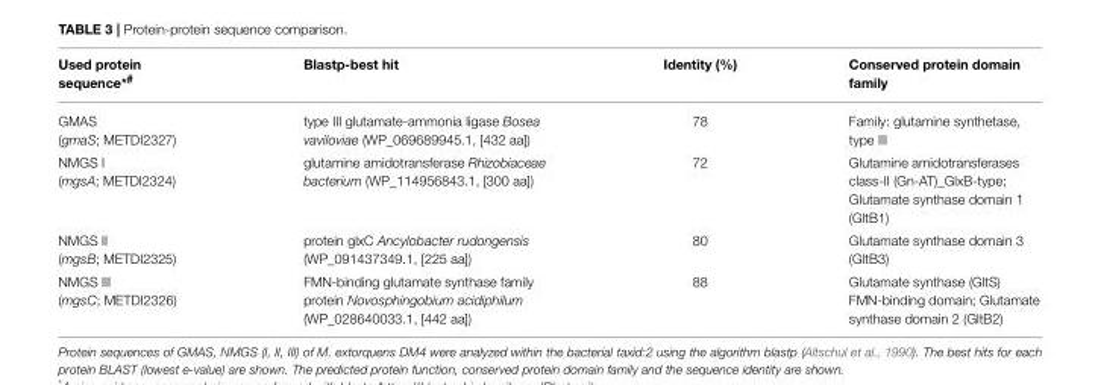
<table><thead><tr><td>Used protein sequence<sup>*#</sup></td><td>Blastp-best hit</td><td>Identity (%)</td><td>Conserved protein domain family</td></tr></thead><tbody><tr><td>GMAS (gmaS; METDI2327)</td><td>type III glutamate-ammonia ligase Bosea vaviloviae (WP_069689945.1, [432 aa])</td><td>78</td><td>Family: glutamine synthetase, type III</td></tr><tr><td>NMGS I (mgsA; METDI2324)</td><td>glutamine amidotransferase Rhizobiaceae bacterium (WP_114956843.1, [300 aa])</td><td>72</td><td>Glutamine amidotransferases class-II (Gn-AT)_GlxB-type; Glutamate synthase domain 1 (GltB1)</td></tr><tr><td>NMGS II (mgsB; METDI2325)</td><td>protein glxC Ancylobacter rudongensis (WP_091437349.1, [225 aa])</td><td>80</td><td>Glutamate synthase domain 3 (GltB3)</td></tr><tr><td>NMGS III (mgsC; METDI2326)</td><td>FMN-binding glutamate synthase family protein Novosphingobium acidiphilum (WP_028640033.1, [442 aa])</td><td>88</td><td>Glutamate synthase (GltS) FMN-binding domain; Glutamate synthase domain 2 (GltB2)</td></tr></tbody></table>